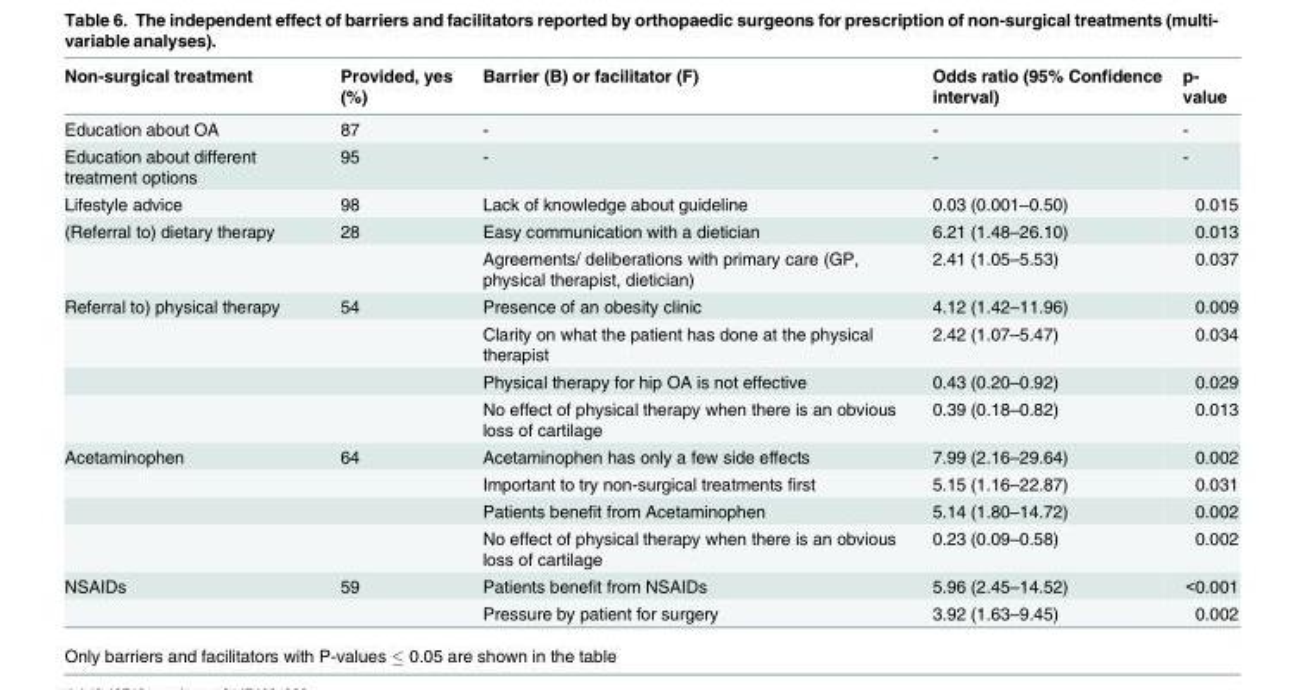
<table><thead><tr><td>Non-surgical treatment</td><td>Provided, yes (%)</td><td>Barrier (B) or facilitator (F)</td><td>Odds ratio (95% Confidence interval)</td><td>p- value</td></tr></thead><tbody><tr><td>Education about OA</td><td>87</td><td>-</td><td>-</td><td>-</td></tr><tr><td>Education about different treatment options</td><td>95</td><td>-</td><td>-</td><td>-</td></tr><tr><td>Lifestyle advice</td><td>98</td><td>Lack of knowledge about guideline</td><td>0.03 (0.001–0.50)</td><td>0.015</td></tr><tr><td rowspan="2">(Referral to) dietary therapy</td><td>28</td><td>Easy communication with a dietician</td><td>6.21 (1.48–26.10)</td><td>0.013</td></tr><tr><td></td><td>Agreements/ deliberations with primary care (GP, physical therapist, dietician)</td><td>2.41 (1.05–5.53)</td><td>0.037</td></tr><tr><td rowspan="4">Referral to) physical therapy</td><td>54</td><td>Presence of an obesity clinic</td><td>4.12 (1.42–11.96)</td><td>0.009</td></tr><tr><td></td><td>Clarity on what the patient has done at the physical therapist</td><td>2.42 (1.07–5.47)</td><td>0.034</td></tr><tr><td></td><td>Physical therapy for hip OA is not effective</td><td>0.43 (0.20–0.92)</td><td>0.029</td></tr><tr><td></td><td>No effect of physical therapy when there is an obvious loss of cartilage</td><td>0.39 (0.18–0.82)</td><td>0.013</td></tr><tr><td rowspan="4">Acetaminophen</td><td>64</td><td>Acetaminophen has only a few side effects</td><td>7.99 (2.16–29.64)</td><td>0.002</td></tr><tr><td></td><td>Important to try non-surgical treatments first</td><td>5.15 (1.16–22.87)</td><td>0.031</td></tr><tr><td></td><td>Patients benefit from Acetaminophen</td><td>5.14 (1.80–14.72)</td><td>0.002</td></tr><tr><td></td><td>No effect of physical therapy when there is an obvious loss of cartilage</td><td>0.23 (0.09–0.58)</td><td>0.002</td></tr><tr><td rowspan="2">NSAIDs</td><td>59</td><td>Patients benefit from NSAIDs</td><td>5.96 (2.45–14.52)</td><td>&lt;0.001</td></tr><tr><td></td><td>Pressure by patient for surgery</td><td>3.92 (1.63–9.45)</td><td>0.002</td></tr></tbody></table>